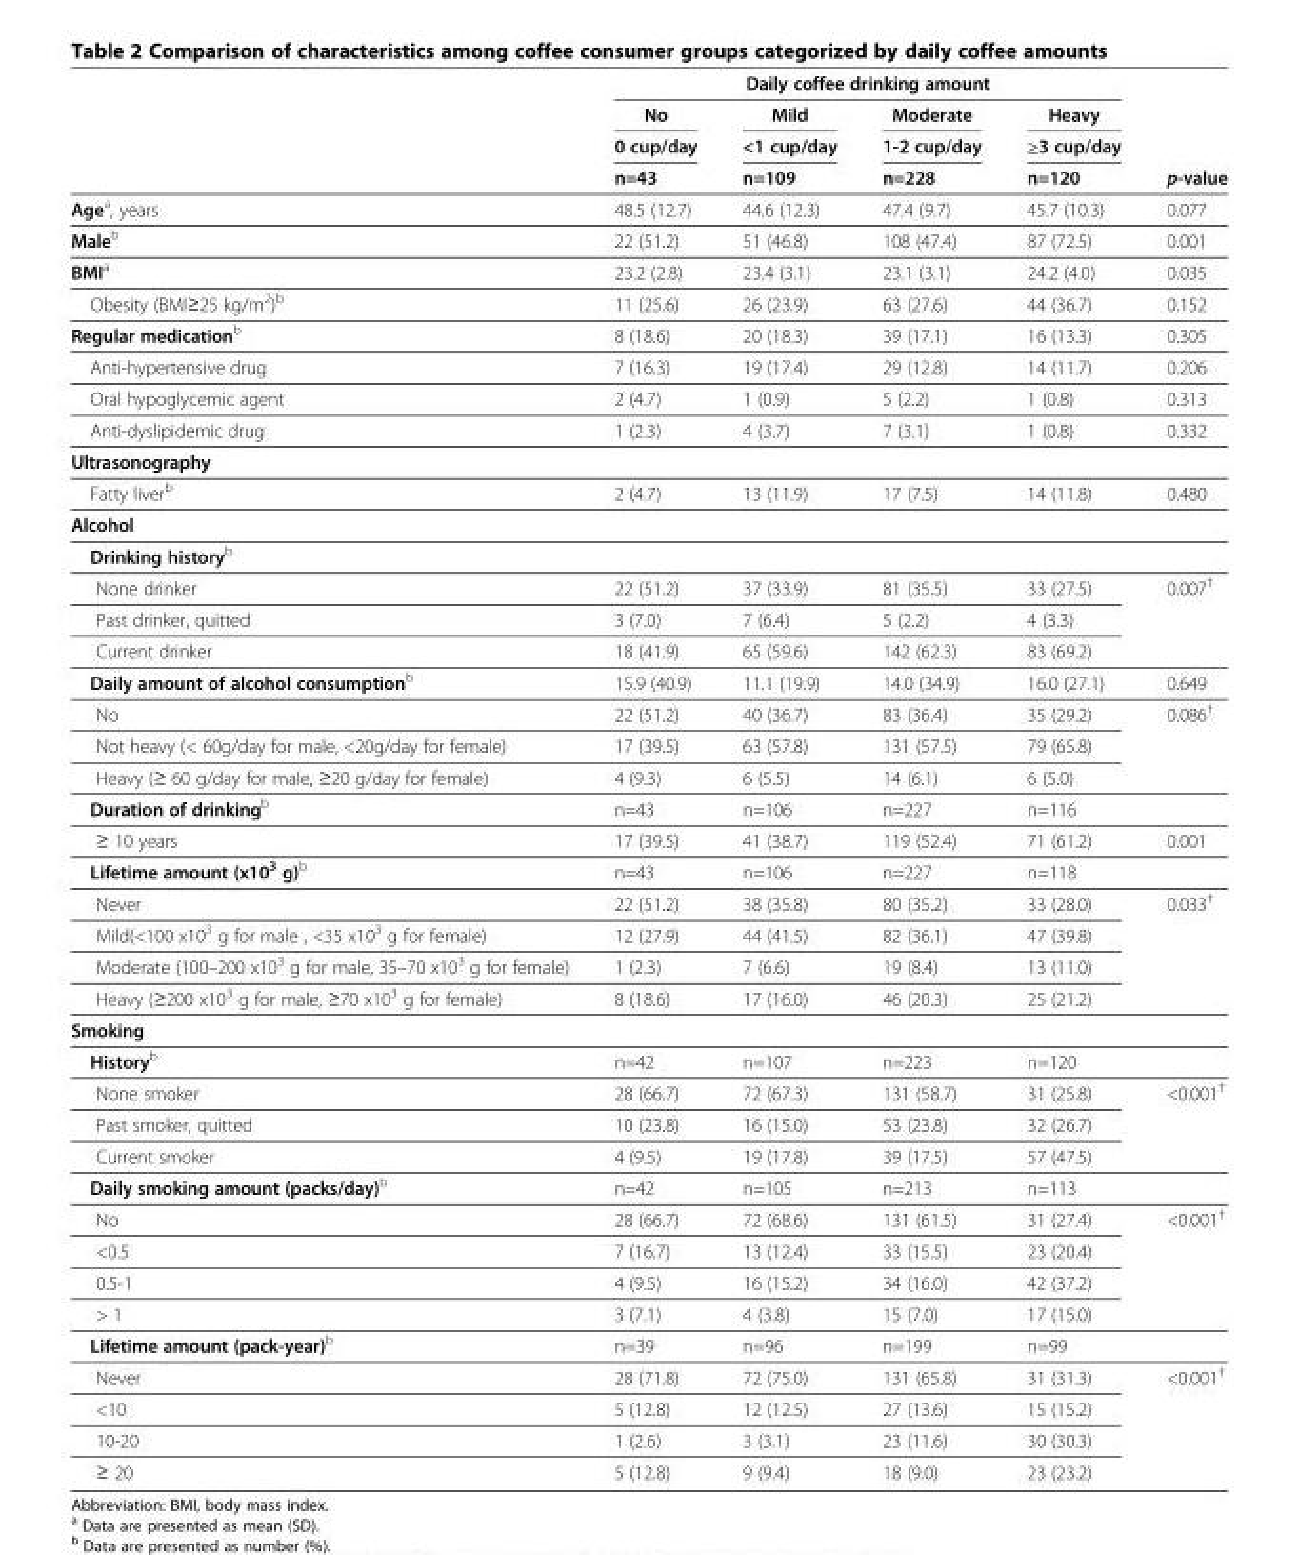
<table><thead><tr><td rowspan="4"></td><td colspan="4">Daily coffee drinking amount</td><td rowspan="4">p-value</td></tr><tr><td rowspan="3">No 0 cup/day n=43</td><td rowspan="3">Mild &lt;1 cup/day n=109</td><td rowspan="3">Moderate 1-2 cup/day n=228</td><td rowspan="3">Heavy ≥3 cup/day n=120</td></tr><tr></tr><tr></tr></thead><tbody><tr><td>Age<sup>a</sup>, years</td><td>48.5 (12.7)</td><td>44.6 (12.3)</td><td>47.4 (9.7)</td><td>45.7 (10.3)</td><td>0.077</td></tr><tr><td>Male<sup>b</sup></td><td>22 (51.2)</td><td>51 (46.8)</td><td>108 (47.4)</td><td>87 (72.5)</td><td>0.001</td></tr><tr><td>BMI<sup>a</sup></td><td>23.2 (2.8)</td><td>23.4 (3.1)</td><td>23.1 (3.1)</td><td>24.2 (4.0)</td><td>0.035</td></tr><tr><td>Obesity (BMI≥25 kg/m<sup>2</sup>)<sup>b</sup></td><td>11 (25.6)</td><td>26 (23.9)</td><td>63 (27.6)</td><td>44 (36.7)</td><td>0.152</td></tr><tr><td>Regular medication<sup>b</sup></td><td>8 (18.6)</td><td>20 (18.3)</td><td>39 (17.1)</td><td>16 (13.3)</td><td>0.305</td></tr><tr><td>Anti-hypertensive drug</td><td>7 (16.3)</td><td>19 (17.4)</td><td>29 (12.8)</td><td>14 (11.7)</td><td>0.206</td></tr><tr><td>Oral hypoglycemic agent</td><td>2 (4.7)</td><td>1 (0.9)</td><td>5 (2.2)</td><td>1 (0.8)</td><td>0.313</td></tr><tr><td>Anti-dyslipidemic drug</td><td>1 (2.3)</td><td>4 (3.7)</td><td>7 (3.1)</td><td>1 (0.8)</td><td>0.332</td></tr><tr><td colspan="6">Ultrasonography</td></tr><tr><td>Fatty liver<sup>b</sup></td><td>2 (4.7)</td><td>13 (11.9)</td><td>17 (7.5)</td><td>14 (11.8)</td><td>0.480</td></tr><tr><td colspan="6">Alcohol</td></tr><tr><td colspan="6">Drinking history<sup>b</sup></td></tr><tr><td>None drinker</td><td>22 (51.2)</td><td>37 (33.9)</td><td>81 (35.5)</td><td>33 (27.5)</td><td rowspan="3">0.007<sup>†</sup></td></tr><tr><td>Past drinker, quitted</td><td>3 (7.0)</td><td>7 (6.4)</td><td>5 (2.2)</td><td>4 (3.3)</td></tr><tr><td>Current drinker</td><td>18 (41.9)</td><td>65 (59.6)</td><td>142 (62.3)</td><td>83 (69.2)</td></tr><tr><td>Daily amount of alcohol consumption<sup>b</sup></td><td>15.9 (40.9)</td><td>11.1 (19.9)</td><td>14.0 (34.9)</td><td>16.0 (27.1)</td><td>0.649</td></tr><tr><td>No</td><td>22 (51.2)</td><td>40 (36.7)</td><td>83 (36.4)</td><td>35 (29.2)</td><td rowspan="3">0.086<sup>†</sup></td></tr><tr><td>Not heavy (&lt; 60g/day for male, &lt;20g/day for female)</td><td>17 (39.5)</td><td>63 (57.8)</td><td>131 (57.5)</td><td>79 (65.8)</td></tr><tr><td>Heavy (≥ 60 g/day for male, ≥20 g/day for female)</td><td>4 (9.3)</td><td>6 (5.5)</td><td>14 (6.1)</td><td>6 (5.0)</td></tr><tr><td>Duration of drinking<sup>b</sup></td><td>n=43</td><td>n=106</td><td>n=227</td><td>n=116</td><td></td></tr><tr><td>≥ 10 years</td><td>17 (39.5)</td><td>41 (38.7)</td><td>119 (52.4)</td><td>71 (61.2)</td><td>0.001</td></tr><tr><td>Lifetime amount (x10<sup>3</sup> g)<sup>b</sup></td><td>n=43</td><td>n=106</td><td>n=227</td><td>n=118</td><td></td></tr><tr><td>Never</td><td>22 (51.2)</td><td>38 (35.8)</td><td>80 (35.2)</td><td>33 (28.0)</td><td rowspan="4">0.033<sup>†</sup></td></tr><tr><td>Mild(&lt;100 x10<sup>3</sup> g for male , &lt;35 x10<sup>3</sup> g for female)</td><td>12 (27.9)</td><td>44 (41.5)</td><td>82 (36.1)</td><td>47 (39.8)</td></tr><tr><td>Moderate (100–200 x10<sup>3</sup> g for male, 35–70 x10<sup>3</sup> g for female)</td><td>1 (2.3)</td><td>7 (6.6)</td><td>19 (8.4)</td><td>13 (11.0)</td></tr><tr><td>Heavy (≥200 x10<sup>3</sup> g for male, ≥70 x10<sup>3</sup> g for female)</td><td>8 (18.6)</td><td>17 (16.0)</td><td>46 (20.3)</td><td>25 (21.2)</td></tr><tr><td colspan="6">Smoking</td></tr><tr><td>History<sup>b</sup></td><td>n=42</td><td>n=107</td><td>n=223</td><td>n=120</td><td></td></tr><tr><td>None smoker</td><td>28 (66.7)</td><td>72 (67.3)</td><td>131 (58.7)</td><td>31 (25.8)</td><td rowspan="3">&lt;0.001<sup>†</sup></td></tr><tr><td>Past smoker, quitted</td><td>10 (23.8)</td><td>16 (15.0)</td><td>53 (23.8)</td><td>32 (26.7)</td></tr><tr><td>Current smoker</td><td>4 (9.5)</td><td>19 (17.8)</td><td>39 (17.5)</td><td>57 (47.5)</td></tr><tr><td>Daily smoking amount (packs/day)<sup>b</sup></td><td>n=42</td><td>n=105</td><td>n=213</td><td>n=113</td><td></td></tr><tr><td>No</td><td>28 (66.7)</td><td>72 (68.6)</td><td>131 (61.5)</td><td>31 (27.4)</td><td rowspan="4">&lt;0.001<sup>†</sup></td></tr><tr><td>&lt;0.5</td><td>7 (16.7)</td><td>13 (12.4)</td><td>33 (15.5)</td><td>23 (20.4)</td></tr><tr><td>0.5-1</td><td>4 (9.5)</td><td>16 (15.2)</td><td>34 (16.0)</td><td>42 (37.2)</td></tr><tr><td>&gt; 1</td><td>3 (7.1)</td><td>4 (3.8)</td><td>15 (7.0)</td><td>17 (15.0)</td></tr><tr><td>Lifetime amount (pack-year)<sup>b</sup></td><td>n=39</td><td>n=96</td><td>n=199</td><td>n=99</td><td></td></tr><tr><td>Never</td><td>28 (71.8)</td><td>72 (75.0)</td><td>131 (65.8)</td><td>31 (31.3)</td><td rowspan="4">&lt;0.001<sup>†</sup></td></tr><tr><td>&lt;10</td><td>5 (12.8)</td><td>12 (12.5)</td><td>27 (13.6)</td><td>15 (15.2)</td></tr><tr><td>10-20</td><td>1 (2.6)</td><td>3 (3.1)</td><td>23 (11.6)</td><td>30 (30.3)</td></tr><tr><td>≥ 20</td><td>5 (12.8)</td><td>9 (9.4)</td><td>18 (9.0)</td><td>23 (23.2)</td></tr></tbody></table>